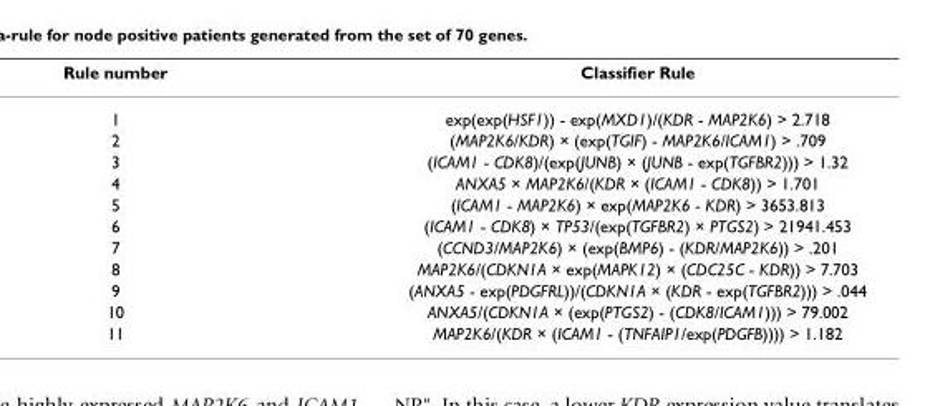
<table><thead><tr><td>Rule number</td><td>Classifier Rule</td></tr></thead><tbody><tr><td>1</td><td>exp(exp(HSF1)) - exp(MXD1)/(KDR - MAP2K6) &gt; 2.718</td></tr><tr><td>2</td><td>(MAP2K6/KDR) × (exp(TGIF) - MAP2K6/ICAM1) &gt; .709</td></tr><tr><td>3</td><td>(ICAM1 - CDK8)/(exp(JUNB) × (JUNB - exp(TGFBR2))) &gt; 1.32</td></tr><tr><td>4</td><td>ANXA5 × MAP2K6/(KDR × (ICAM1 - CDK8)) &gt; 1.701</td></tr><tr><td>5</td><td>(ICAM1 - MAP2K6) × exp(MAP2K6 - KDR) &gt; 3653.813</td></tr><tr><td>6</td><td>(ICAM1 - CDK8) × TP53/(exp(TGFBR2) × PTGS2) &gt; 21941.453</td></tr><tr><td>7</td><td>(CCND3/MAP2K6) × (exp(BMP6) - (KDR/MAP2K6)) &gt; .201</td></tr><tr><td>8</td><td>MAP2K6/(CDKN1A × exp(MAPK12) × (CDC25C - KDR)) &gt; 7.703</td></tr><tr><td>9</td><td>(ANXA5 - exp(PDGFRL))/(CDKN1A × (KDR - exp(TGFBR2))) &gt; .044</td></tr><tr><td>10</td><td>ANXA5/(CDKN1A × (exp(PTGS2) - (CDK8/ICAM1))) &gt; 79.002</td></tr><tr><td>11</td><td>MAP2K6/(KDR × (ICAM1 - (TNFAIP1/exp(PDGFB)))) &gt; 1.182</td></tr></tbody></table>